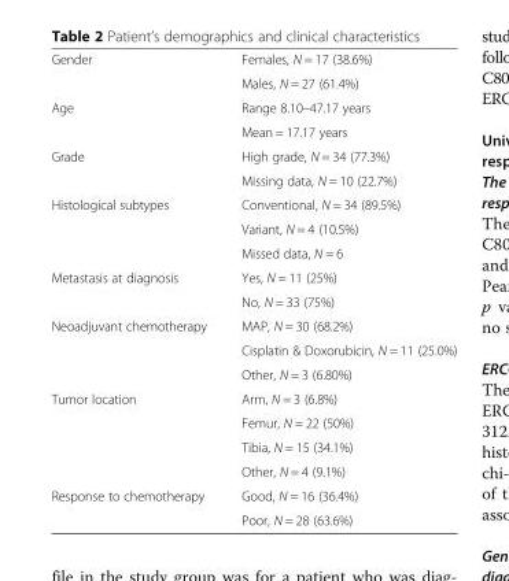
<table><tbody><tr><td rowspan="2">Gender</td><td>Females, N = 17 (38.6%)</td></tr><tr><td>Males, N = 27 (61.4%)</td></tr><tr><td rowspan="2">Age</td><td>Range 8.10–47.17 years</td></tr><tr><td>Mean = 17.17 years</td></tr><tr><td rowspan="2">Grade</td><td>High grade, N = 34 (77.3%)</td></tr><tr><td>Missing data, N = 10 (22.7%)</td></tr><tr><td rowspan="3">Histological subtypes</td><td>Conventional, N = 34 (89.5%)</td></tr><tr><td>Variant, N = 4 (10.5%)</td></tr><tr><td>Missed data, N = 6</td></tr><tr><td rowspan="2">Metastasis at diagnosis</td><td>Yes, N = 11 (25%)</td></tr><tr><td>No, N = 33 (75%)</td></tr><tr><td rowspan="3">Neoadjuvant chemotherapy</td><td>MAP, N = 30 (68.2%)</td></tr><tr><td>Cisplatin &amp; Doxorubicin, N = 11 (25.0%)</td></tr><tr><td>Other, N = 3 (6.80%)</td></tr><tr><td rowspan="4">Tumor location</td><td>Arm, N = 3 (6.8%)</td></tr><tr><td>Femur, N = 22 (50%)</td></tr><tr><td>Tibia, N = 15 (34.1%)</td></tr><tr><td>Other, N = 4 (9.1%)</td></tr><tr><td rowspan="2">Response to chemotherapy</td><td>Good, N = 16 (36.4%)</td></tr><tr><td>Poor, N = 28 (63.6%)</td></tr></tbody></table>